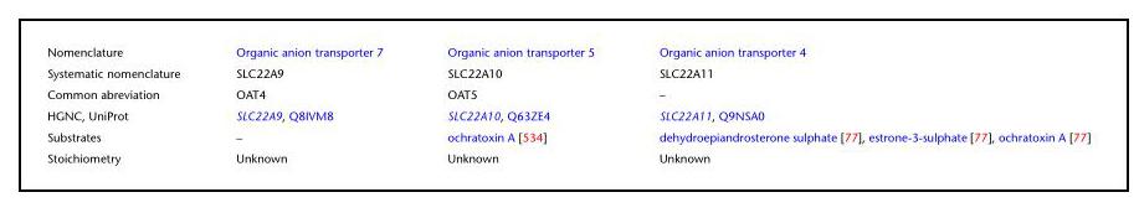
<table><tbody><tr><td>Nomenclature</td><td>Organic anion transporter 7</td><td>Organic anion transporter 5</td><td>Organic anion transporter 4</td></tr><tr><td>Systematic nomenclature</td><td>SLC22A9</td><td>SLC22A10</td><td>SLC22A11</td></tr><tr><td>Common abreviation</td><td>OAT4</td><td>OAT5</td><td>–</td></tr><tr><td>HGNC, UniProt</td><td>SLC22A9, Q8IVM8</td><td>SLC22A10, Q63ZE4</td><td>SLC22A11, Q9NSA0</td></tr><tr><td>Substrates</td><td>–</td><td>ochratoxin A [534]</td><td>dehydroepiandrosterone sulphate [77], estrone-3-sulphate [77], ochratoxin A [77]</td></tr><tr><td>Stoichiometry</td><td>Unknown</td><td>Unknown</td><td>Unknown</td></tr></tbody></table>